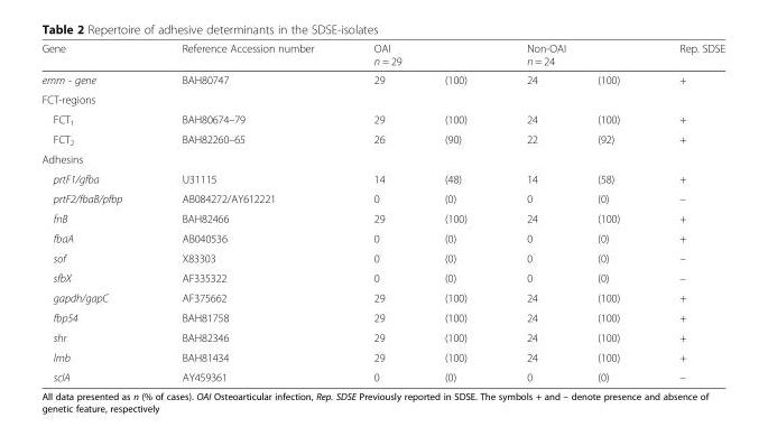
<table><thead><tr><td rowspan="2">Gene emm - gene</td><td rowspan="2">Reference Accession number BAH80747</td><td colspan="2">OAI n = 29</td><td colspan="2">Non-OAI n = 24</td><td rowspan="2">Rep. SDSE +</td></tr><tr><td>29</td><td>(100)</td><td>24</td><td>(100)</td></tr></thead><tbody><tr><td colspan="7">FCT-regions</td></tr><tr><td>FCT<sub>1</sub></td><td>BAH80674–79</td><td>29</td><td>(100)</td><td>24</td><td>(100)</td><td>+</td></tr><tr><td>FCT<sub>2</sub></td><td>BAH82260–65</td><td>26</td><td>(90)</td><td>22</td><td>(92)</td><td>+</td></tr><tr><td colspan="7">Adhesins</td></tr><tr><td>prtF1/gfba</td><td>U31115</td><td>14</td><td>(48)</td><td>14</td><td>(58)</td><td>+</td></tr><tr><td>prtF2/fbaB/pfbp</td><td>AB084272/AY612221</td><td>0</td><td>(0)</td><td>0</td><td>(0)</td><td>–</td></tr><tr><td>fnB</td><td>BAH82466</td><td>29</td><td>(100)</td><td>24</td><td>(100)</td><td>+</td></tr><tr><td>fbaA</td><td>AB040536</td><td>0</td><td>(0)</td><td>0</td><td>(0)</td><td>+</td></tr><tr><td>sof</td><td>X83303</td><td>0</td><td>(0)</td><td>0</td><td>(0)</td><td>–</td></tr><tr><td>sfbX</td><td>AF335322</td><td>0</td><td>(0)</td><td>0</td><td>(0)</td><td>–</td></tr><tr><td>gapdh/gapC</td><td>AF375662</td><td>29</td><td>(100)</td><td>24</td><td>(100)</td><td>+</td></tr><tr><td>fbp54</td><td>BAH81758</td><td>29</td><td>(100)</td><td>24</td><td>(100)</td><td>+</td></tr><tr><td>shr</td><td>BAH82346</td><td>29</td><td>(100)</td><td>24</td><td>(100)</td><td>+</td></tr><tr><td>lmb</td><td>BAH81434</td><td>29</td><td>(100)</td><td>24</td><td>(100)</td><td>+</td></tr><tr><td>sclA</td><td>AY459361</td><td>0</td><td>(0)</td><td>0</td><td>(0)</td><td>–</td></tr></tbody></table>